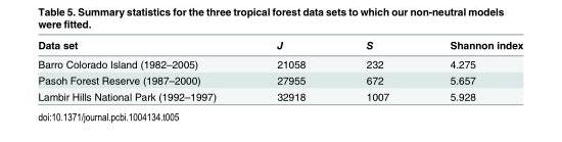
<table><thead><tr><td>Data set</td><td>J</td><td>S</td><td>Shannon index</td></tr></thead><tbody><tr><td>Barro Colorado Island (1982–2005)</td><td>21058</td><td>232</td><td>4.275</td></tr><tr><td>Pasoh Forest Reserve (1987–2000)</td><td>27955</td><td>672</td><td>5.657</td></tr><tr><td>Lambir Hills National Park (1992–1997)</td><td>32918</td><td>1007</td><td>5.928</td></tr></tbody></table>